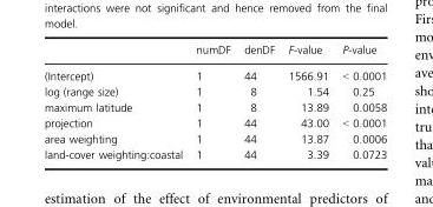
<table><thead><tr><td></td><td>numDF</td><td>denDF</td><td>F-value</td><td>P-value</td></tr></thead><tbody><tr><td>(Intercept)</td><td>1</td><td>44</td><td>1566.91</td><td>&lt; 0.0001</td></tr><tr><td>log (range size)</td><td>1</td><td>8</td><td>1.54</td><td>0.25</td></tr><tr><td>maximum latitude</td><td>1</td><td>8</td><td>13.89</td><td>0.0058</td></tr><tr><td>projection</td><td>1</td><td>44</td><td>43.00</td><td>&lt; 0.0001</td></tr><tr><td>area weighting</td><td>1</td><td>44</td><td>13.87</td><td>0.0006</td></tr><tr><td>land-cover weighting:coastal</td><td>1</td><td>44</td><td>3.39</td><td>0.0723</td></tr></tbody></table>